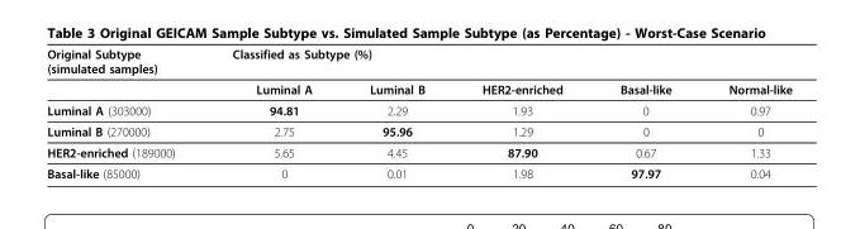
<table><thead><tr><td rowspan="2">Original Subtype (simulated samples)</td><td colspan="5">Classified as Subtype (%)</td></tr><tr><td>Luminal A</td><td>Luminal B</td><td>HER2-enriched</td><td>Basal-like</td><td>Normal-like</td></tr></thead><tbody><tr><td>Luminal A (303000)</td><td>94.81</td><td>2.29</td><td>1.93</td><td>0</td><td>0.97</td></tr><tr><td>Luminal B (270000)</td><td>2.75</td><td>95.96</td><td>1.29</td><td>0</td><td>0</td></tr><tr><td>HER2-enriched (189000)</td><td>5.65</td><td>4.45</td><td>87.90</td><td>0.67</td><td>1.33</td></tr><tr><td>Basal-like (85000)</td><td>0</td><td>0.01</td><td>1.98</td><td>97.97</td><td>0.04</td></tr></tbody></table>